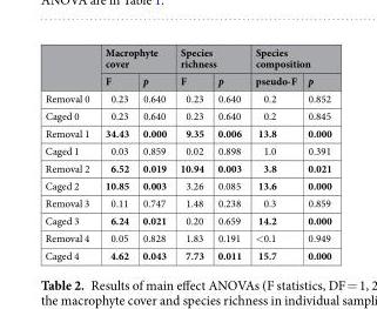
<table><thead><tr><td rowspan="2"></td><td colspan="2">Macrophyte cover</td><td colspan="2">Species richness</td><td colspan="2">Species composition</td></tr><tr><td>F</td><td>p</td><td>F</td><td>p</td><td>pseudo-F</td><td>p</td></tr></thead><tbody><tr><td>Removal 0</td><td>0.23</td><td>0.640</td><td>0.23</td><td>0.640</td><td>0.2</td><td>0.852</td></tr><tr><td>Caged 0</td><td>0.23</td><td>0.640</td><td>0.23</td><td>0.640</td><td>0.2</td><td>0.845</td></tr><tr><td>Removal 1</td><td>34.43</td><td>0.000</td><td>9.35</td><td>0.006</td><td>13.8</td><td>0.000</td></tr><tr><td>Caged 1</td><td>0.03</td><td>0.859</td><td>0.02</td><td>0.898</td><td>1.0</td><td>0.391</td></tr><tr><td>Removal 2</td><td>6.52</td><td>0.019</td><td>10.94</td><td>0.003</td><td>3.8</td><td>0.021</td></tr><tr><td>Caged 2</td><td>10.85</td><td>0.003</td><td>3.26</td><td>0.085</td><td>13.6</td><td>0.000</td></tr><tr><td>Removal 3</td><td>0.11</td><td>0.747</td><td>1.48</td><td>0.238</td><td>0.3</td><td>0.859</td></tr><tr><td>Caged 3</td><td>6.24</td><td>0.021</td><td>0.20</td><td>0.659</td><td>14.2</td><td>0.000</td></tr><tr><td>Removal 4</td><td>0.05</td><td>0.828</td><td>1.83</td><td>0.191</td><td>&lt;0.1</td><td>0.949</td></tr><tr><td>Caged 4</td><td>4.62</td><td>0.043</td><td>7.73</td><td>0.011</td><td>15.7</td><td>0.000</td></tr></tbody></table>